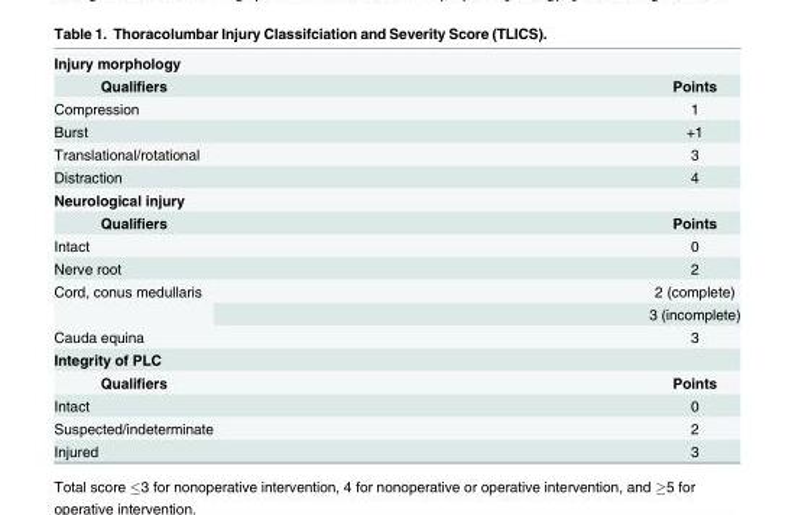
<table><tbody><tr><td colspan="2">Injury morphology</td></tr><tr><td>Qualifiers</td><td>Points</td></tr><tr><td>Compression</td><td>1</td></tr><tr><td>Burst</td><td>+1</td></tr><tr><td>Translational/rotational</td><td>3</td></tr><tr><td>Distraction</td><td>4</td></tr><tr><td colspan="2">Neurological injury</td></tr><tr><td>Qualifiers</td><td>Points</td></tr><tr><td>Intact</td><td>0</td></tr><tr><td>Nerve root</td><td>2</td></tr><tr><td rowspan="2">Cord, conus medullaris</td><td>2 (complete)</td></tr><tr><td>3 (incomplete)</td></tr><tr><td>Cauda equina</td><td>3</td></tr><tr><td colspan="2">Integrity of PLC</td></tr><tr><td>Qualifiers</td><td>Points</td></tr><tr><td>Intact</td><td>0</td></tr><tr><td>Suspected/indeterminate</td><td>2</td></tr><tr><td>Injured</td><td>3</td></tr></tbody></table>